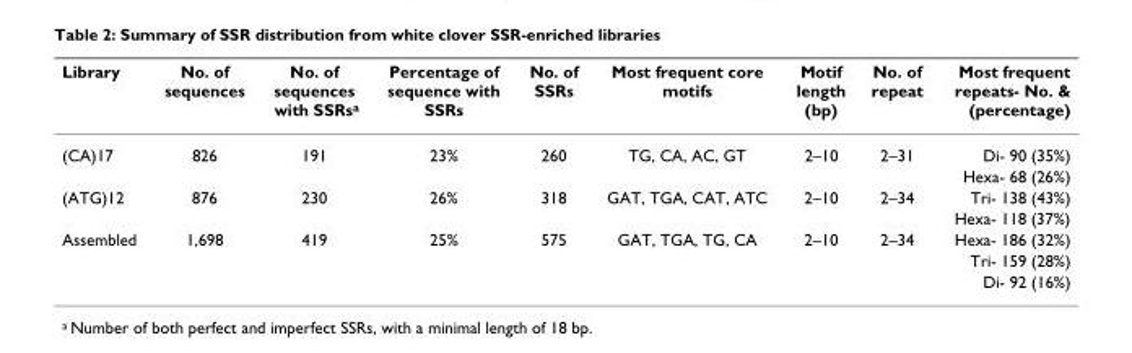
<table><thead><tr><td>Library</td><td>No. of sequences</td><td>No. of sequences with SSRs<sup>a</sup></td><td>Percentage of sequence with SSRs</td><td>No. of SSRs</td><td>Most frequent core motifs</td><td>Motif length (bp)</td><td>No. of repeat</td><td>Most frequent repeats- No. &amp; (percentage)</td></tr></thead><tbody><tr><td rowspan="2">(CA)17</td><td>826</td><td>191</td><td>23%</td><td>260</td><td>TG, CA, AC, GT</td><td>2–10</td><td>2–31</td><td>Di- 90 (35%)</td></tr><tr><td></td><td></td><td></td><td></td><td></td><td></td><td></td><td>Hexa- 68 (26%)</td></tr><tr><td rowspan="2">(ATG)12</td><td>876</td><td>230</td><td>26%</td><td>318</td><td>GAT, TGA, CAT, ATC</td><td>2–10</td><td>2–34</td><td>Tri- 138 (43%)</td></tr><tr><td></td><td></td><td></td><td></td><td></td><td></td><td></td><td>Hexa- 118 (37%)</td></tr><tr><td rowspan="3">Assembled</td><td>1,698</td><td>419</td><td>25%</td><td>575</td><td>GAT, TGA, TG, CA</td><td>2–10</td><td>2–34</td><td>Hexa- 186 (32%)</td></tr><tr><td></td><td></td><td></td><td></td><td></td><td></td><td></td><td>Tri- 159 (28%)</td></tr><tr><td></td><td></td><td></td><td></td><td></td><td></td><td></td><td>Di- 92 (16%)</td></tr></tbody></table>